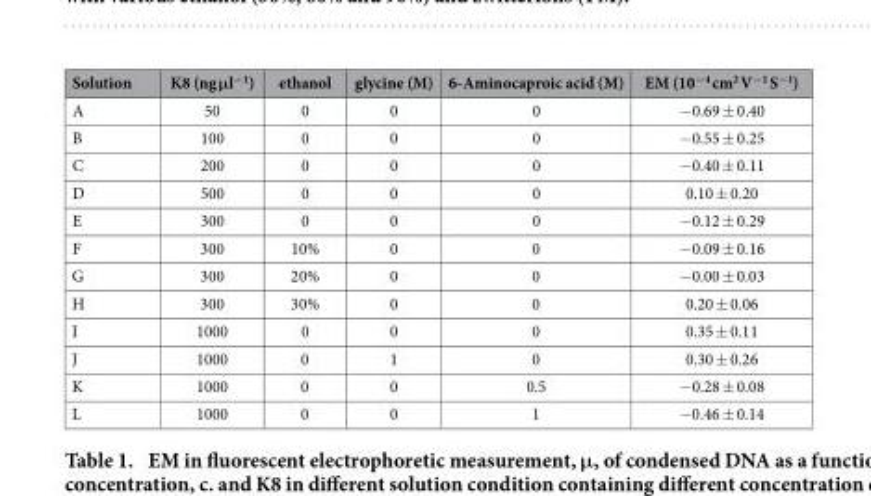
<table><thead><tr><td>Solution</td><td>K8 (ng μl<sup>−1</sup>)</td><td>ethanol</td><td>glycine (M)</td><td>6-Aminocaproic acid (M)</td><td>EM (10<sup>−4</sup> cm<sup>2</sup> V<sup>−1</sup> S<sup>−1</sup>)</td></tr></thead><tbody><tr><td>A</td><td>50</td><td>0</td><td>0</td><td>0</td><td>− 0.69 ± 0.40</td></tr><tr><td>B</td><td>100</td><td>0</td><td>0</td><td>0</td><td>− 0.55 ± 0.25</td></tr><tr><td>C</td><td>200</td><td>0</td><td>0</td><td>0</td><td>− 0.40 ± 0.11</td></tr><tr><td>D</td><td>500</td><td>0</td><td>0</td><td>0</td><td>0.10 ± 0.20</td></tr><tr><td>E</td><td>300</td><td>0</td><td>0</td><td>0</td><td>− 0.12 ± 0.29</td></tr><tr><td>F</td><td>300</td><td>10%</td><td>0</td><td>0</td><td>− 0.09 ± 0.16</td></tr><tr><td>G</td><td>300</td><td>20%</td><td>0</td><td>0</td><td>− 0.00 ± 0.03</td></tr><tr><td>H</td><td>300</td><td>30%</td><td>0</td><td>0</td><td>0.20 ± 0.06</td></tr><tr><td>I</td><td>1000</td><td>0</td><td>0</td><td>0</td><td>0.35 ± 0.11</td></tr><tr><td>J</td><td>1000</td><td>0</td><td>1</td><td>0</td><td>0.30 ± 0.26</td></tr><tr><td>K</td><td>1000</td><td>0</td><td>0</td><td>0.5</td><td>− 0.28 ± 0.08</td></tr><tr><td>L</td><td>1000</td><td>0</td><td>0</td><td>1</td><td>− 0.46 ± 0.14</td></tr></tbody></table>